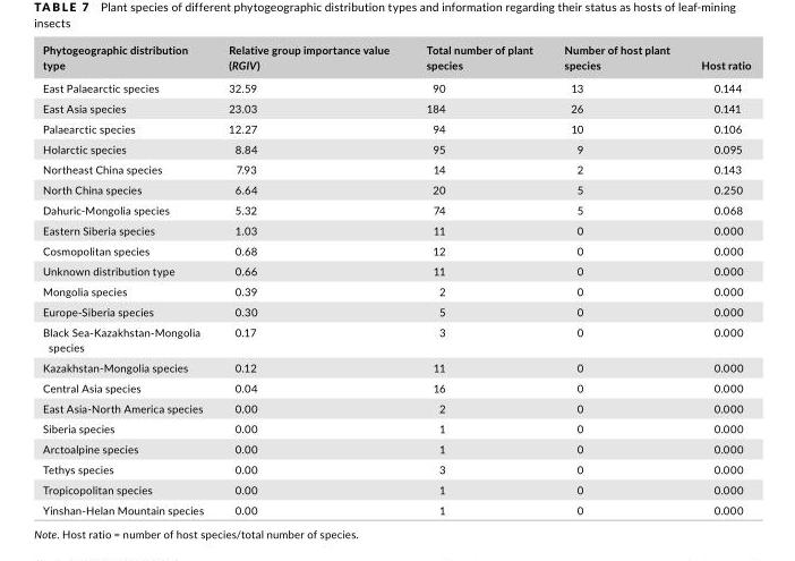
<table><thead><tr><td>Phytogeographic distribution type</td><td>Relative group importance value (RGIV)</td><td>Total number of plant species</td><td>Number of host plant species</td><td>Host ratio</td></tr></thead><tbody><tr><td>East Palaearctic species</td><td>32.59</td><td>90</td><td>13</td><td>0.144</td></tr><tr><td>East Asia species</td><td>23.03</td><td>184</td><td>26</td><td>0.141</td></tr><tr><td>Palaearctic species</td><td>12.27</td><td>94</td><td>10</td><td>0.106</td></tr><tr><td>Holarctic species</td><td>8.84</td><td>95</td><td>9</td><td>0.095</td></tr><tr><td>Northeast China species</td><td>7.93</td><td>14</td><td>2</td><td>0.143</td></tr><tr><td>North China species</td><td>6.64</td><td>20</td><td>5</td><td>0.250</td></tr><tr><td>Dahuric- Mongolia species</td><td>5.32</td><td>74</td><td>5</td><td>0.068</td></tr><tr><td>Eastern Siberia species</td><td>1.03</td><td>11</td><td>0</td><td>0.000</td></tr><tr><td>Cosmopolitan species</td><td>0.68</td><td>12</td><td>0</td><td>0.000</td></tr><tr><td>Unknown distribution type</td><td>0.66</td><td>11</td><td>0</td><td>0.000</td></tr><tr><td>Mongolia species</td><td>0.39</td><td>2</td><td>0</td><td>0.000</td></tr><tr><td>Europe- Siberia species</td><td>0.30</td><td>5</td><td>0</td><td>0.000</td></tr><tr><td>Black Sea- Kazakhstan- Mongolia species</td><td>0.17</td><td>3</td><td>0</td><td>0.000</td></tr><tr><td>Kazakhstan- Mongolia species</td><td>0.12</td><td>11</td><td>0</td><td>0.000</td></tr><tr><td>Central Asia species</td><td>0.04</td><td>16</td><td>0</td><td>0.000</td></tr><tr><td>East Asia- North America species</td><td>0.00</td><td>2</td><td>0</td><td>0.000</td></tr><tr><td>Siberia species</td><td>0.00</td><td>1</td><td>0</td><td>0.000</td></tr><tr><td>Arctoalpine species</td><td>0.00</td><td>1</td><td>0</td><td>0.000</td></tr><tr><td>Tethys species</td><td>0.00</td><td>3</td><td>0</td><td>0.000</td></tr><tr><td>Tropicopolitan species</td><td>0.00</td><td>1</td><td>0</td><td>0.000</td></tr><tr><td>Yinshan- Helan Mountain species</td><td>0.00</td><td>1</td><td>0</td><td>0.000</td></tr></tbody></table>